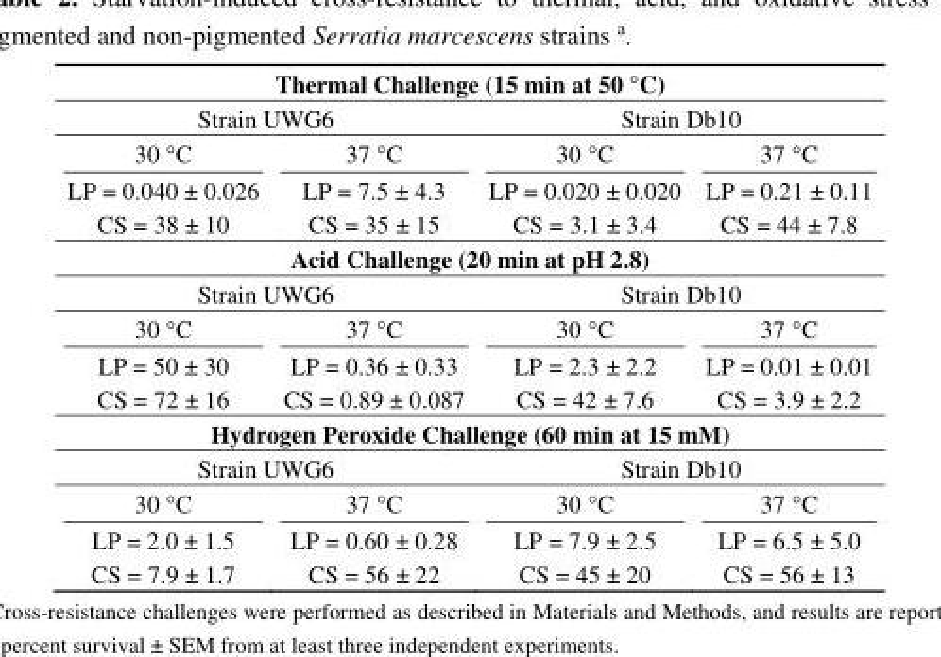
<table><tbody><tr><td colspan="4">Thermal Challenge (15 min at 50 °C)</td></tr><tr><td colspan="2">Strain UWG6</td><td colspan="2">Strain Db10</td></tr><tr><td>30 °C</td><td>37 °C</td><td>30 °C</td><td>37 °C</td></tr><tr><td>LP = 0.040 ± 0.026</td><td>LP = 7.5 ± 4.3</td><td>LP = 0.020 ± 0.020</td><td>LP = 0.21 ± 0.11</td></tr><tr><td>CS = 38 ± 10</td><td>CS = 35 ± 15</td><td>CS = 3.1 ± 3.4</td><td>CS = 44 ± 7.8</td></tr><tr><td colspan="4">Acid Challenge (20 min at pH 2.8)</td></tr><tr><td colspan="2">Strain UWG6</td><td colspan="2">Strain Db10</td></tr><tr><td>30 °C</td><td>37 °C</td><td>30 °C</td><td>37 °C</td></tr><tr><td>LP = 50 ± 30</td><td>LP = 0.36 ± 0.33</td><td>LP = 2.3 ± 2.2</td><td>LP = 0.01 ± 0.01</td></tr><tr><td>CS = 72 ± 16</td><td>CS = 0.89 ± 0.087</td><td>CS = 42 ± 7.6</td><td>CS = 3.9 ± 2.2</td></tr><tr><td colspan="4">Hydrogen Peroxide Challenge (60 min at 15 mM)</td></tr><tr><td colspan="2">Strain UWG6</td><td colspan="2">Strain Db10</td></tr><tr><td>30 °C</td><td>37 °C</td><td>30 °C</td><td>37 °C</td></tr><tr><td>LP = 2.0 ± 1.5</td><td>LP = 0.60 ± 0.28</td><td>LP = 7.9 ± 2.5</td><td>LP = 6.5 ± 5.0</td></tr><tr><td>CS = 7.9 ± 1.7</td><td>CS = 56 ± 22</td><td>CS = 45 ± 20</td><td>CS = 56 ± 13</td></tr></tbody></table>